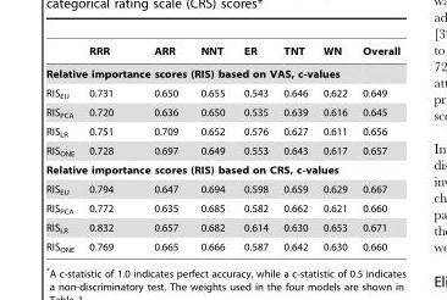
<table><thead><tr><td></td><td>RRR</td><td>ARR</td><td>NNT</td><td>ER</td><td>TNT</td><td>WN</td><td>Overall</td></tr></thead><tbody><tr><td colspan="8">Relative importance scores (RIS) based on VAS, c-values</td></tr><tr><td>RIS<sub>EU</sub></td><td>0.731</td><td>0.650</td><td>0.655</td><td>0.543</td><td>0.646</td><td>0.622</td><td>0.649</td></tr><tr><td>RIS<sub>PCA</sub></td><td>0.720</td><td>0.636</td><td>0.650</td><td>0.535</td><td>0.639</td><td>0.616</td><td>0.645</td></tr><tr><td>RIS<sub>LR</sub></td><td>0.751</td><td>0.709</td><td>0.652</td><td>0.576</td><td>0.627</td><td>0.611</td><td>0.656</td></tr><tr><td>RIS<sub>ONE</sub></td><td>0.728</td><td>0.697</td><td>0.649</td><td>0.553</td><td>0.643</td><td>0.617</td><td>0.657</td></tr><tr><td colspan="8">Relative importance scores (RIS) based on CRS, c-values</td></tr><tr><td>RIS<sub>EU</sub></td><td>0.794</td><td>0.647</td><td>0.694</td><td>0.598</td><td>0.659</td><td>0.629</td><td>0.667</td></tr><tr><td>RIS<sub>PCA</sub></td><td>0.772</td><td>0.635</td><td>0.685</td><td>0.582</td><td>0.662</td><td>0.621</td><td>0.660</td></tr><tr><td>RIS<sub>LR</sub></td><td>0.832</td><td>0.657</td><td>0.682</td><td>0.614</td><td>0.630</td><td>0.653</td><td>0.671</td></tr><tr><td>RIS<sub>ONE</sub></td><td>0.769</td><td>0.665</td><td>0.666</td><td>0.587</td><td>0.642</td><td>0.630</td><td>0.660</td></tr></tbody></table>